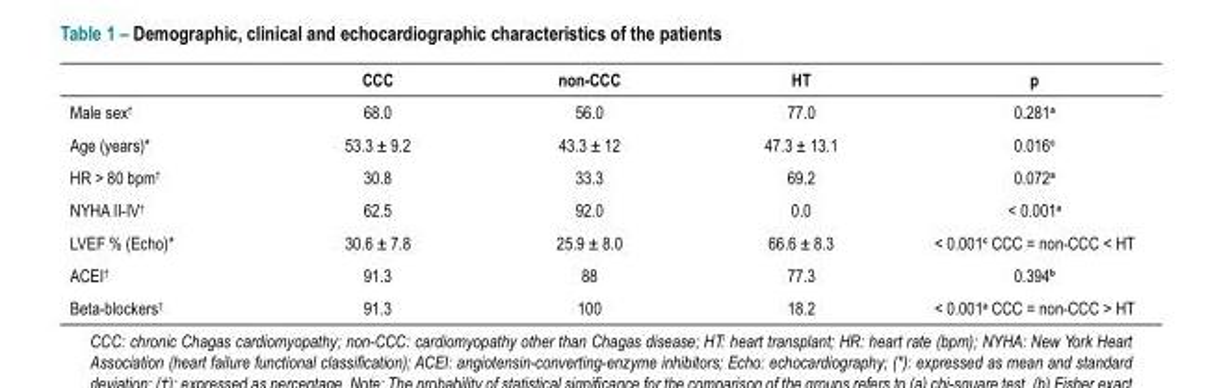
<table><thead><tr><td></td><td>CCC</td><td>non-CCC</td><td>HT</td><td>p</td></tr></thead><tbody><tr><td>Male sex<sup>†</sup></td><td>68.0</td><td>56.0</td><td>77.0</td><td>0.281<sup>a</sup></td></tr><tr><td>Age (years)*</td><td>53.3 ± 9.2</td><td>43.3 ± 12</td><td>47.3 ± 13.1</td><td>0.016<sup>c</sup></td></tr><tr><td>HR &gt; 80 bpm<sup>†</sup></td><td>30.8</td><td>33.3</td><td>69.2</td><td>0.072<sup>a</sup></td></tr><tr><td>NYHA II-IV<sup>†</sup></td><td>62.5</td><td>92.0</td><td>0.0</td><td>&lt; 0.001<sup>a</sup></td></tr><tr><td>LVEF % (Echo)*</td><td>30.6 ± 7.8</td><td>25.9 ± 8.0</td><td>66.6 ± 8.3</td><td>&lt; 0.001<sup>c</sup> CCC = non-CCC &lt; HT</td></tr><tr><td>ACEI<sup>†</sup></td><td>91.3</td><td>88</td><td>77.3</td><td>0.394<sup>b</sup></td></tr><tr><td>Beta-blockers<sup>†</sup></td><td>91.3</td><td>100</td><td>18.2</td><td>&lt; 0.001<sup>a</sup> CCC = non-CCC &gt; HT</td></tr></tbody></table>